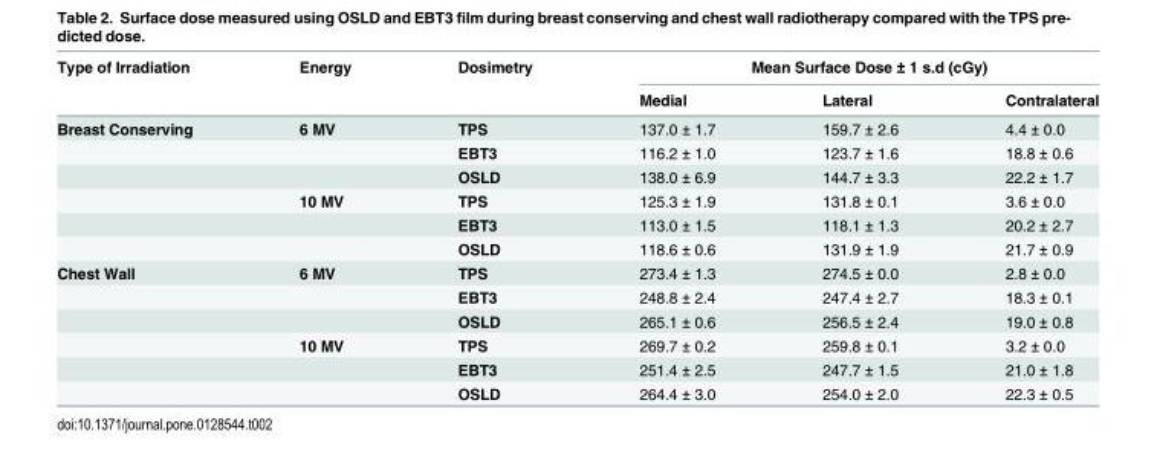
<table><thead><tr><td rowspan="2">Type of Irradiation</td><td rowspan="2">Energy</td><td rowspan="2">Dosimetry</td><td colspan="3">Mean Surface Dose ± 1 s.d (cGy)</td></tr><tr><td>Medial</td><td>Lateral</td><td>Contralateral</td></tr></thead><tbody><tr><td rowspan="6">Breast Conserving</td><td>6 MV</td><td>TPS</td><td>137.0 ± 1.7</td><td>159.7 ± 2.6</td><td>4.4 ± 0.0</td></tr><tr><td></td><td>EBT3</td><td>116.2 ± 1.0</td><td>123.7 ± 1.6</td><td>18.8 ± 0.6</td></tr><tr><td></td><td>OSLD</td><td>138.0 ± 6.9</td><td>144.7 ± 3.3</td><td>22.2 ± 1.7</td></tr><tr><td>10 MV</td><td>TPS</td><td>125.3 ± 1.9</td><td>131.8 ± 0.1</td><td>3.6 ± 0.0</td></tr><tr><td></td><td>EBT3</td><td>113.0 ± 1.5</td><td>118.1 ± 1.3</td><td>20.2 ± 2.7</td></tr><tr><td></td><td>OSLD</td><td>118.6 ± 0.6</td><td>131.9 ± 1.9</td><td>21.7 ± 0.9</td></tr><tr><td rowspan="6">Chest Wall</td><td>6 MV</td><td>TPS</td><td>273.4 ± 1.3</td><td>274.5 ± 0.0</td><td>2.8 ± 0.0</td></tr><tr><td></td><td>EBT3</td><td>248.8 ± 2.4</td><td>247.4 ± 2.7</td><td>18.3 ± 0.1</td></tr><tr><td></td><td>OSLD</td><td>265.1 ± 0.6</td><td>256.5 ± 2.4</td><td>19.0 ± 0.8</td></tr><tr><td>10 MV</td><td>TPS</td><td>269.7 ± 0.2</td><td>259.8 ± 0.1</td><td>3.2 ± 0.0</td></tr><tr><td></td><td>EBT3</td><td>251.4 ± 2.5</td><td>247.7 ± 1.5</td><td>21.0 ± 1.8</td></tr><tr><td></td><td>OSLD</td><td>264.4 ± 3.0</td><td>254.0 ± 2.0</td><td>22.3 ± 0.5</td></tr></tbody></table>